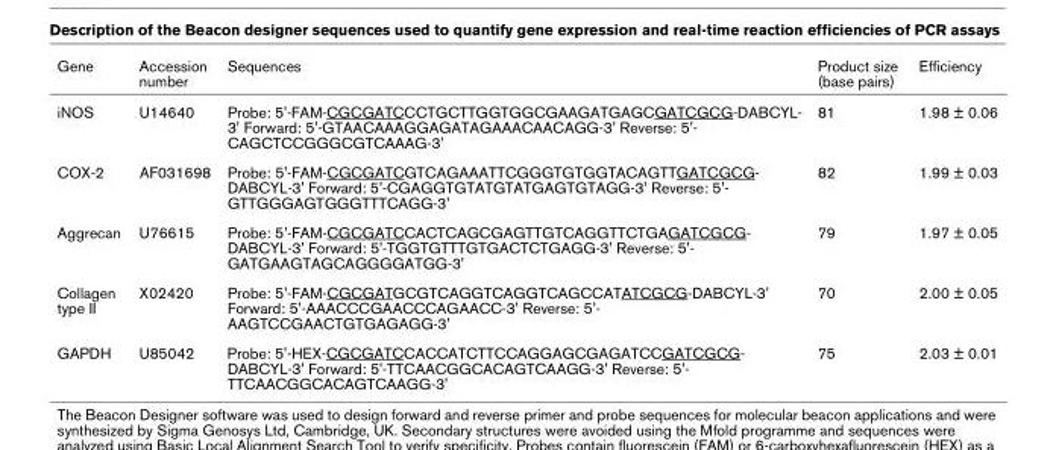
<table><thead><tr><td>Gene</td><td>Accession number</td><td>Sequences</td><td>Product size (base pairs)</td><td>Efficiency</td></tr></thead><tbody><tr><td>iNOS</td><td>U14640</td><td>Probe: 5&#x27;-FAM-CGCGATCCCTGCTTGGTGGCGAAGATGAGCGATCGCG-DABCYL- 3&#x27; Forward: 5&#x27;-GTAACAAAGGAGATAGAAACAACAGG-3&#x27; Reverse: 5&#x27;- CAGCTCCGGGCGTCAAAG-3&#x27;</td><td>81</td><td>1.98 ± 0.06</td></tr><tr><td>COX-2</td><td>AF031698</td><td>Probe: 5&#x27;-FAM-CGCGATCGTCAGAAATTCGGGTGTGGTACAGTTGATCGCG- DABCYL-3&#x27; Forward: 5&#x27;-CGAGGTGTATGTATGAGTGTAGG-3&#x27; Reverse: 5&#x27;- GTTGGGAGTGGGTTTCAGG-3&#x27;</td><td>82</td><td>1.99 ± 0.03</td></tr><tr><td>Aggrecan</td><td>U76615</td><td>Probe: 5&#x27;-FAM-CGCGATCCACTCAGCGAGTTGTCAGGTTCTGAGATCGCG- DABCYL-3&#x27; Forward: 5&#x27;-TGGTGTTTGTGACTCTGAGG-3&#x27; Reverse: 5&#x27;- GATGAAGTAGCAGGGGATGG-3&#x27;</td><td>79</td><td>1.97 ± 0.05</td></tr><tr><td>Collagen type II</td><td>X02420</td><td>Probe: 5&#x27;-FAM-CGCGATGCGTCAGGTCAGGTCAGCCATATCGCG-DABCYL-3&#x27; Forward: 5&#x27;-AAACCCGAACCCAGAACC-3&#x27; Reverse: 5&#x27;- AAGTCCGAACTGTGAGAGG-3&#x27;</td><td>70</td><td>2.00 ± 0.05</td></tr><tr><td>GAPDH</td><td>U85042</td><td>Probe: 5&#x27;-HEX-CGCGATCCACCATCTTCCAGGAGCGAGATCCGATCGCG- DABCYL-3&#x27; Forward: 5&#x27;-TTCAACGGCACAGTCAAGG-3&#x27; Reverse: 5&#x27;- TTCAACGGCACAGTCAAGG-3&#x27;</td><td>75</td><td>2.03 ± 0.01</td></tr></tbody></table>